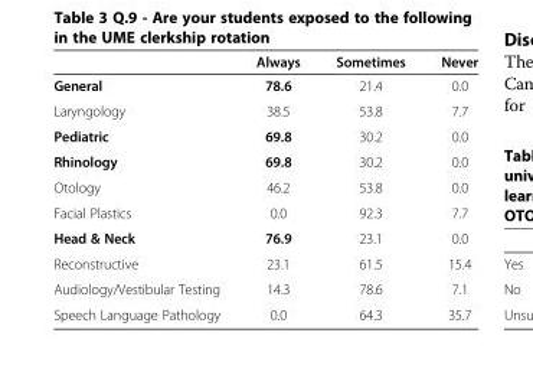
<table><thead><tr><td></td><td>Always</td><td>Sometimes</td><td>Never</td></tr></thead><tbody><tr><td>General</td><td>78.6</td><td>21.4</td><td>0.0</td></tr><tr><td>Laryngology</td><td>38.5</td><td>53.8</td><td>7.7</td></tr><tr><td>Pediatric</td><td>69.8</td><td>30.2</td><td>0.0</td></tr><tr><td>Rhinology</td><td>69.8</td><td>30.2</td><td>0.0</td></tr><tr><td>Otology</td><td>46.2</td><td>53.8</td><td>0.0</td></tr><tr><td>Facial Plastics</td><td>0.0</td><td>92.3</td><td>7.7</td></tr><tr><td>Head &amp; Neck</td><td>76.9</td><td>23.1</td><td>0.0</td></tr><tr><td>Reconstructive</td><td>23.1</td><td>61.5</td><td>15.4</td></tr><tr><td>Audiology/Vestibular Testing</td><td>14.3</td><td>78.6</td><td>7.1</td></tr><tr><td>Speech Language Pathology</td><td>0.0</td><td>64.3</td><td>35.7</td></tr></tbody></table>